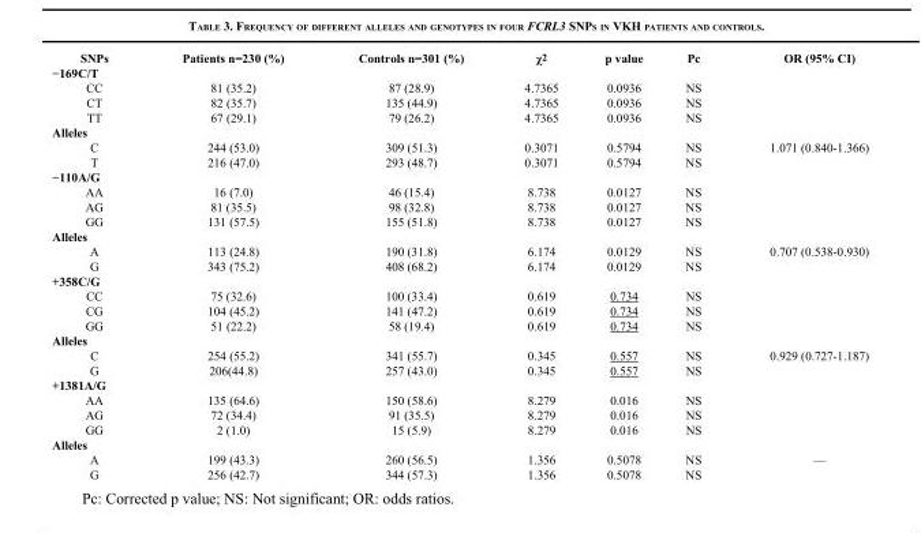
<table><thead><tr><td>SNPs</td><td>Patients n=230 (%)</td><td>Controls n=301 (%)</td><td>χ<sup>2</sup></td><td>p value</td><td>Pc</td><td>OR (95% CI)</td></tr></thead><tbody><tr><td colspan="7">−169C/T</td></tr><tr><td>CC</td><td>81 (35.2)</td><td>87 (28.9)</td><td>4.7365</td><td>0.0936</td><td>NS</td><td></td></tr><tr><td>CT</td><td>82 (35.7)</td><td>135 (44.9)</td><td>4.7365</td><td>0.0936</td><td>NS</td><td></td></tr><tr><td>TT</td><td>67 (29.1)</td><td>79 (26.2)</td><td>4.7365</td><td>0.0936</td><td>NS</td><td></td></tr><tr><td colspan="7">Alleles</td></tr><tr><td>C</td><td>244 (53.0)</td><td>309 (51.3)</td><td>0.3071</td><td>0.5794</td><td>NS</td><td>1.071 (0.840-1.366)</td></tr><tr><td>T</td><td>216 (47.0)</td><td>293 (48.7)</td><td>0.3071</td><td>0.5794</td><td>NS</td><td></td></tr><tr><td colspan="7">−110A/G</td></tr><tr><td>AA</td><td>16 (7.0)</td><td>46 (15.4)</td><td>8.738</td><td>0.0127</td><td>NS</td><td></td></tr><tr><td>AG</td><td>81 (35.5)</td><td>98 (32.8)</td><td>8.738</td><td>0.0127</td><td>NS</td><td></td></tr><tr><td>GG</td><td>131 (57.5)</td><td>155 (51.8)</td><td>8.738</td><td>0.0127</td><td>NS</td><td></td></tr><tr><td colspan="7">Alleles</td></tr><tr><td>A</td><td>113 (24.8)</td><td>190 (31.8)</td><td>6.174</td><td>0.0129</td><td>NS</td><td>0.707 (0.538-0.930)</td></tr><tr><td>G</td><td>343 (75.2)</td><td>408 (68.2)</td><td>6.174</td><td>0.0129</td><td>NS</td><td></td></tr><tr><td colspan="7">+358C/G</td></tr><tr><td>CC</td><td>75 (32.6)</td><td>100 (33.4)</td><td>0.619</td><td>0.734</td><td>NS</td><td></td></tr><tr><td>CG</td><td>104 (45.2)</td><td>141 (47.2)</td><td>0.619</td><td>0.734</td><td>NS</td><td></td></tr><tr><td>GG</td><td>51 (22.2)</td><td>58 (19.4)</td><td>0.619</td><td>0.734</td><td>NS</td><td></td></tr><tr><td colspan="7">Alleles</td></tr><tr><td>C</td><td>254 (55.2)</td><td>341 (55.7)</td><td>0.345</td><td>0.557</td><td>NS</td><td>0.929 (0.727-1.187)</td></tr><tr><td>G</td><td>206(44.8)</td><td>257 (43.0)</td><td>0.345</td><td>0.557</td><td>NS</td><td></td></tr><tr><td colspan="7">+1381A/G</td></tr><tr><td>AA</td><td>135 (64.6)</td><td>150 (58.6)</td><td>8.279</td><td>0.016</td><td>NS</td><td></td></tr><tr><td>AG</td><td>72 (34.4)</td><td>91 (35.5)</td><td>8.279</td><td>0.016</td><td>NS</td><td></td></tr><tr><td>GG</td><td>2 (1.0)</td><td>15 (5.9)</td><td>8.279</td><td>0.016</td><td>NS</td><td></td></tr><tr><td colspan="7">Alleles</td></tr><tr><td>A</td><td>199 (43.3)</td><td>260 (56.5)</td><td>1.356</td><td>0.5078</td><td>NS</td><td>—</td></tr><tr><td>G</td><td>256 (42.7)</td><td>344 (57.3)</td><td>1.356</td><td>0.5078</td><td>NS</td><td></td></tr></tbody></table>